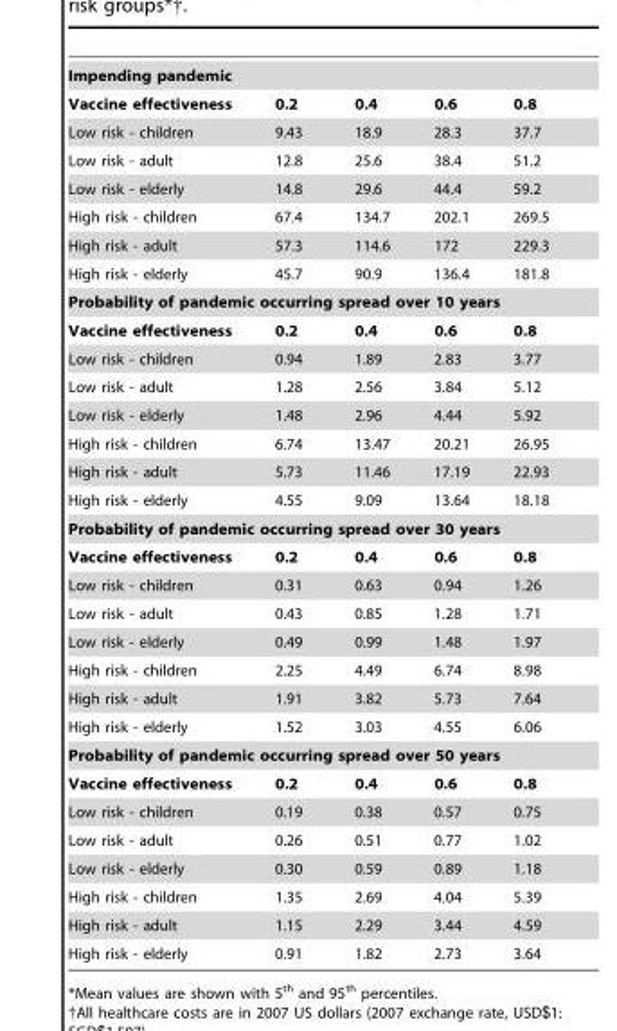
<table><tbody><tr><td colspan="5">Impending pandemic</td></tr><tr><td>Vaccine effectiveness</td><td>0.2</td><td>0.4</td><td>0.6</td><td>0.8</td></tr><tr><td>Low risk - children</td><td>9.43</td><td>18.9</td><td>28.3</td><td>37.7</td></tr><tr><td>Low risk - adult</td><td>12.8</td><td>25.6</td><td>38.4</td><td>51.2</td></tr><tr><td>Low risk - elderly</td><td>14.8</td><td>29.6</td><td>44.4</td><td>59.2</td></tr><tr><td>High risk - children</td><td>67.4</td><td>134.7</td><td>202.1</td><td>269.5</td></tr><tr><td>High risk - adult</td><td>57.3</td><td>114.6</td><td>172</td><td>229.3</td></tr><tr><td>High risk - elderly</td><td>45.7</td><td>90.9</td><td>136.4</td><td>181.8</td></tr><tr><td colspan="5">Probability of pandemic occurring spread over 10 years</td></tr><tr><td>Vaccine effectiveness</td><td>0.2</td><td>0.4</td><td>0.6</td><td>0.8</td></tr><tr><td>Low risk - children</td><td>0.94</td><td>1.89</td><td>2.83</td><td>3.77</td></tr><tr><td>Low risk - adult</td><td>1.28</td><td>2.56</td><td>3.84</td><td>5.12</td></tr><tr><td>Low risk - elderly</td><td>1.48</td><td>2.96</td><td>4.44</td><td>5.92</td></tr><tr><td>High risk - children</td><td>6.74</td><td>13.47</td><td>20.21</td><td>26.95</td></tr><tr><td>High risk - adult</td><td>5.73</td><td>11.46</td><td>17.19</td><td>22.93</td></tr><tr><td>High risk - elderly</td><td>4.55</td><td>9.09</td><td>13.64</td><td>18.18</td></tr><tr><td colspan="5">Probability of pandemic occurring spread over 30 years</td></tr><tr><td>Vaccine effectiveness</td><td>0.2</td><td>0.4</td><td>0.6</td><td>0.8</td></tr><tr><td>Low risk - children</td><td>0.31</td><td>0.63</td><td>0.94</td><td>1.26</td></tr><tr><td>Low risk - adult</td><td>0.43</td><td>0.85</td><td>1.28</td><td>1.71</td></tr><tr><td>Low risk - elderly</td><td>0.49</td><td>0.99</td><td>1.48</td><td>1.97</td></tr><tr><td>High risk - children</td><td>2.25</td><td>4.49</td><td>6.74</td><td>8.98</td></tr><tr><td>High risk - adult</td><td>1.91</td><td>3.82</td><td>5.73</td><td>7.64</td></tr><tr><td>High risk - elderly</td><td>1.52</td><td>3.03</td><td>4.55</td><td>6.06</td></tr><tr><td colspan="5">Probability of pandemic occurring spread over 50 years</td></tr><tr><td>Vaccine effectiveness</td><td>0.2</td><td>0.4</td><td>0.6</td><td>0.8</td></tr><tr><td>Low risk - children</td><td>0.19</td><td>0.38</td><td>0.57</td><td>0.75</td></tr><tr><td>Low risk - adult</td><td>0.26</td><td>0.51</td><td>0.77</td><td>1.02</td></tr><tr><td>Low risk - elderly</td><td>0.30</td><td>0.59</td><td>0.89</td><td>1.18</td></tr><tr><td>High risk - children</td><td>1.35</td><td>2.69</td><td>4.04</td><td>5.39</td></tr><tr><td>High risk - adult</td><td>1.15</td><td>2.29</td><td>3.44</td><td>4.59</td></tr><tr><td>High risk - elderly</td><td>0.91</td><td>1.82</td><td>2.73</td><td>3.64</td></tr></tbody></table>